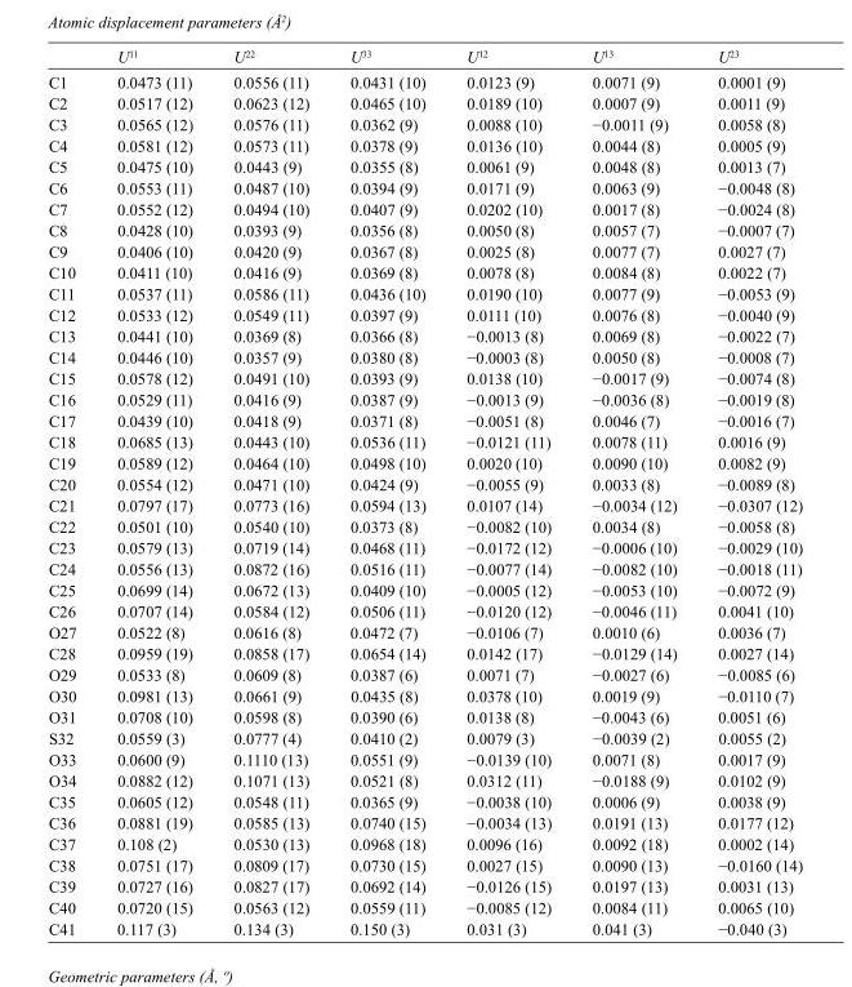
<table><thead><tr><td></td><td>U<sup>11</sup></td><td>U<sup>22</sup></td><td>U<sup>33</sup></td><td>U<sup>12</sup></td><td>U<sup>13</sup></td><td>U<sup>23</sup></td></tr></thead><tbody><tr><td>C1</td><td>0.0473 (11)</td><td>0.0556 (11)</td><td>0.0431 (10)</td><td>0.0123 (9)</td><td>0.0071 (9)</td><td>0.0001 (9)</td></tr><tr><td>C2</td><td>0.0517 (12)</td><td>0.0623 (12)</td><td>0.0465 (10)</td><td>0.0189 (10)</td><td>0.0007 (9)</td><td>0.0011 (9)</td></tr><tr><td>C3</td><td>0.0565 (12)</td><td>0.0576 (11)</td><td>0.0362 (9)</td><td>0.0088 (10)</td><td>−0.0011 (9)</td><td>0.0058 (8)</td></tr><tr><td>C4</td><td>0.0581 (12)</td><td>0.0573 (11)</td><td>0.0378 (9)</td><td>0.0136 (10)</td><td>0.0044 (8)</td><td>0.0005 (9)</td></tr><tr><td>C5</td><td>0.0475 (10)</td><td>0.0443 (9)</td><td>0.0355 (8)</td><td>0.0061 (9)</td><td>0.0048 (8)</td><td>0.0013 (7)</td></tr><tr><td>C6</td><td>0.0553 (11)</td><td>0.0487 (10)</td><td>0.0394 (9)</td><td>0.0171 (9)</td><td>0.0063 (9)</td><td>−0.0048 (8)</td></tr><tr><td>C7</td><td>0.0552 (12)</td><td>0.0494 (10)</td><td>0.0407 (9)</td><td>0.0202 (10)</td><td>0.0017 (8)</td><td>−0.0024 (8)</td></tr><tr><td>C8</td><td>0.0428 (10)</td><td>0.0393 (9)</td><td>0.0356 (8)</td><td>0.0050 (8)</td><td>0.0057 (7)</td><td>−0.0007 (7)</td></tr><tr><td>C9</td><td>0.0406 (10)</td><td>0.0420 (9)</td><td>0.0367 (8)</td><td>0.0025 (8)</td><td>0.0077 (7)</td><td>0.0027 (7)</td></tr><tr><td>C10</td><td>0.0411 (10)</td><td>0.0416 (9)</td><td>0.0369 (8)</td><td>0.0078 (8)</td><td>0.0084 (8)</td><td>0.0022 (7)</td></tr><tr><td>C11</td><td>0.0537 (11)</td><td>0.0586 (11)</td><td>0.0436 (10)</td><td>0.0190 (10)</td><td>0.0077 (9)</td><td>−0.0053 (9)</td></tr><tr><td>C12</td><td>0.0533 (12)</td><td>0.0549 (11)</td><td>0.0397 (9)</td><td>0.0111 (10)</td><td>0.0076 (8)</td><td>−0.0040 (9)</td></tr><tr><td>C13</td><td>0.0441 (10)</td><td>0.0369 (8)</td><td>0.0366 (8)</td><td>−0.0013 (8)</td><td>0.0069 (8)</td><td>−0.0022 (7)</td></tr><tr><td>C14</td><td>0.0446 (10)</td><td>0.0357 (9)</td><td>0.0380 (8)</td><td>−0.0003 (8)</td><td>0.0050 (8)</td><td>−0.0008 (7)</td></tr><tr><td>C15</td><td>0.0578 (12)</td><td>0.0491 (10)</td><td>0.0393 (9)</td><td>0.0138 (10)</td><td>−0.0017 (9)</td><td>−0.0074 (8)</td></tr><tr><td>C16</td><td>0.0529 (11)</td><td>0.0416 (9)</td><td>0.0387 (9)</td><td>−0.0013 (9)</td><td>−0.0036 (8)</td><td>−0.0019 (8)</td></tr><tr><td>C17</td><td>0.0439 (10)</td><td>0.0418 (9)</td><td>0.0371 (8)</td><td>−0.0051 (8)</td><td>0.0046 (7)</td><td>−0.0016 (7)</td></tr><tr><td>C18</td><td>0.0685 (13)</td><td>0.0443 (10)</td><td>0.0536 (11)</td><td>−0.0121 (11)</td><td>0.0078 (11)</td><td>0.0016 (9)</td></tr><tr><td>C19</td><td>0.0589 (12)</td><td>0.0464 (10)</td><td>0.0498 (10)</td><td>0.0020 (10)</td><td>0.0090 (10)</td><td>0.0082 (9)</td></tr><tr><td>C20</td><td>0.0554 (12)</td><td>0.0471 (10)</td><td>0.0424 (9)</td><td>−0.0055 (9)</td><td>0.0033 (8)</td><td>−0.0089 (8)</td></tr><tr><td>C21</td><td>0.0797 (17)</td><td>0.0773 (16)</td><td>0.0594 (13)</td><td>0.0107 (14)</td><td>−0.0034 (12)</td><td>−0.0307 (12)</td></tr><tr><td>C22</td><td>0.0501 (10)</td><td>0.0540 (10)</td><td>0.0373 (8)</td><td>−0.0082 (10)</td><td>0.0034 (8)</td><td>−0.0058 (8)</td></tr><tr><td>C23</td><td>0.0579 (13)</td><td>0.0719 (14)</td><td>0.0468 (11)</td><td>−0.0172 (12)</td><td>−0.0006 (10)</td><td>−0.0029 (10)</td></tr><tr><td>C24</td><td>0.0556 (13)</td><td>0.0872 (16)</td><td>0.0516 (11)</td><td>−0.0077 (14)</td><td>−0.0082 (10)</td><td>−0.0018 (11)</td></tr><tr><td>C25</td><td>0.0699 (14)</td><td>0.0672 (13)</td><td>0.0409 (10)</td><td>−0.0005 (12)</td><td>−0.0053 (10)</td><td>−0.0072 (9)</td></tr><tr><td>C26</td><td>0.0707 (14)</td><td>0.0584 (12)</td><td>0.0506 (11)</td><td>−0.0120 (12)</td><td>−0.0046 (11)</td><td>0.0041 (10)</td></tr><tr><td>O27</td><td>0.0522 (8)</td><td>0.0616 (8)</td><td>0.0472 (7)</td><td>−0.0106 (7)</td><td>0.0010 (6)</td><td>0.0036 (7)</td></tr><tr><td>C28</td><td>0.0959 (19)</td><td>0.0858 (17)</td><td>0.0654 (14)</td><td>0.0142 (17)</td><td>−0.0129 (14)</td><td>0.0027 (14)</td></tr><tr><td>O29</td><td>0.0533 (8)</td><td>0.0609 (8)</td><td>0.0387 (6)</td><td>0.0071 (7)</td><td>−0.0027 (6)</td><td>−0.0085 (6)</td></tr><tr><td>O30</td><td>0.0981 (13)</td><td>0.0661 (9)</td><td>0.0435 (8)</td><td>0.0378 (10)</td><td>0.0019 (9)</td><td>−0.0110 (7)</td></tr><tr><td>O31</td><td>0.0708 (10)</td><td>0.0598 (8)</td><td>0.0390 (6)</td><td>0.0138 (8)</td><td>−0.0043 (6)</td><td>0.0051 (6)</td></tr><tr><td>S32</td><td>0.0559 (3)</td><td>0.0777 (4)</td><td>0.0410 (2)</td><td>0.0079 (3)</td><td>−0.0039 (2)</td><td>0.0055 (2)</td></tr><tr><td>O33</td><td>0.0600 (9)</td><td>0.1110 (13)</td><td>0.0551 (9)</td><td>−0.0139 (10)</td><td>0.0071 (8)</td><td>0.0017 (9)</td></tr><tr><td>O34</td><td>0.0882 (12)</td><td>0.1071 (13)</td><td>0.0521 (8)</td><td>0.0312 (11)</td><td>−0.0188 (9)</td><td>0.0102 (9)</td></tr><tr><td>C35</td><td>0.0605 (12)</td><td>0.0548 (11)</td><td>0.0365 (9)</td><td>−0.0038 (10)</td><td>0.0006 (9)</td><td>0.0038 (9)</td></tr><tr><td>C36</td><td>0.0881 (19)</td><td>0.0585 (13)</td><td>0.0740 (15)</td><td>−0.0034 (13)</td><td>0.0191 (13)</td><td>0.0177 (12)</td></tr><tr><td>C37</td><td>0.108 (2)</td><td>0.0530 (13)</td><td>0.0968 (18)</td><td>0.0096 (16)</td><td>0.0092 (18)</td><td>0.0002 (14)</td></tr><tr><td>C38</td><td>0.0751 (17)</td><td>0.0809 (17)</td><td>0.0730 (15)</td><td>0.0027 (15)</td><td>0.0090 (13)</td><td>−0.0160 (14)</td></tr><tr><td>C39</td><td>0.0727 (16)</td><td>0.0827 (17)</td><td>0.0692 (14)</td><td>−0.0126 (15)</td><td>0.0197 (13)</td><td>0.0031 (13)</td></tr><tr><td>C40</td><td>0.0720 (15)</td><td>0.0563 (12)</td><td>0.0559 (11)</td><td>−0.0085 (12)</td><td>0.0084 (11)</td><td>0.0065 (10)</td></tr><tr><td>C41</td><td>0.117 (3)</td><td>0.134 (3)</td><td>0.150 (3)</td><td>0.031 (3)</td><td>0.041 (3)</td><td>−0.040 (3)</td></tr></tbody></table>